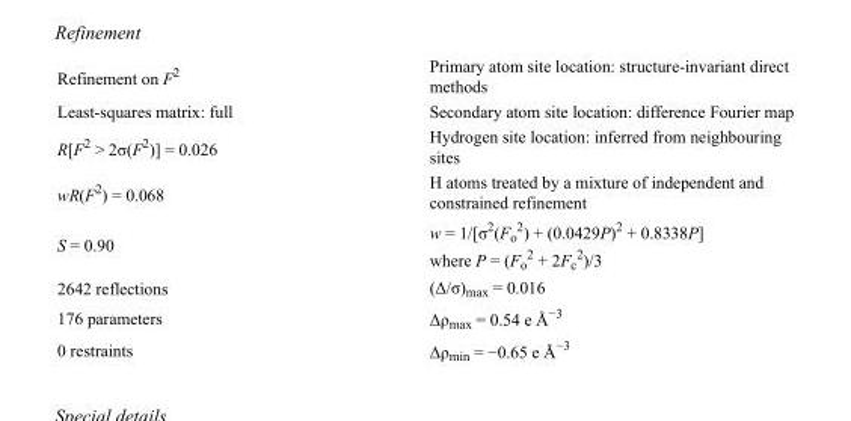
<table><tbody><tr><td>Refinement on F<sup>2</sup></td><td>Primary atom site location: structure-invariant direct methods</td></tr><tr><td>Least-squares matrix: full</td><td>Secondary atom site location: difference Fourier map</td></tr><tr><td>R[F<sup>2</sup> &gt; 2σ(F<sup>2</sup>)] = 0.026</td><td>Hydrogen site location: inferred from neighbouring sites</td></tr><tr><td>wR(F<sup>2</sup>) = 0.068</td><td>H atoms treated by a mixture of independent and constrained refinement</td></tr><tr><td>S = 0.90</td><td>w = 1/[σ<sup>2</sup>(F<sub>o</sub> <sup>2</sup>) + (0.0429P)<sup>2</sup> + 0.8338P] where P = (F<sub>o</sub> <sup>2</sup> + 2F<sub>c</sub> <sup>2</sup>)/3</td></tr><tr><td>2642 reflections</td><td>(Δ/σ)<sub>max</sub> = 0.016</td></tr><tr><td>176 parameters</td><td>Δρ<sub>max</sub> = 0.54 e Å<sup>−3</sup></td></tr><tr><td>0 restraints</td><td>Δρ<sub>min</sub> = −0.65 e Å<sup>−3</sup></td></tr></tbody></table>